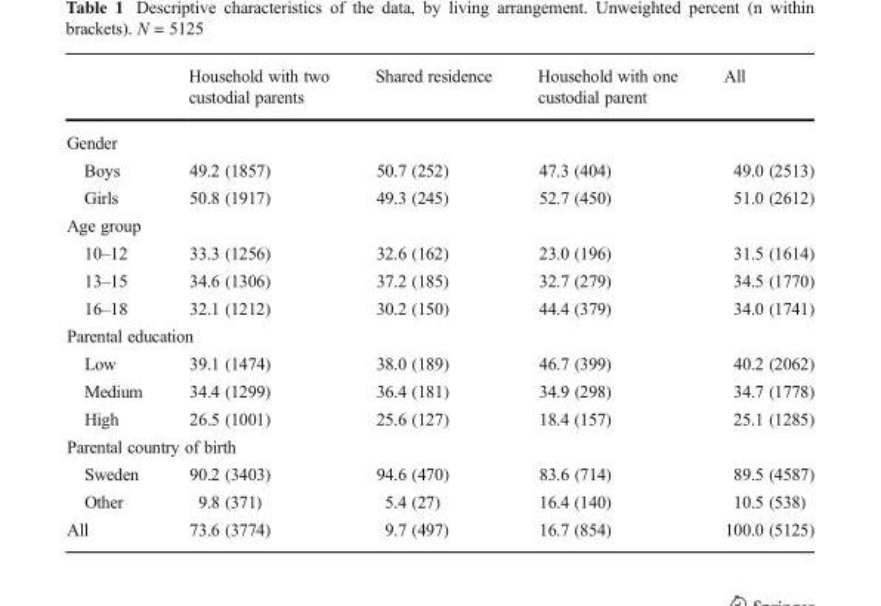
<table><thead><tr><td></td><td>Household with two custodial parents</td><td>Shared residence</td><td>Household with one custodial parent</td><td>All</td></tr></thead><tbody><tr><td colspan="5">Gender</td></tr><tr><td>Boys</td><td>49.2 (1857)</td><td>50.7 (252)</td><td>47.3 (404)</td><td>49.0 (2513)</td></tr><tr><td>Girls</td><td>50.8 (1917)</td><td>49.3 (245)</td><td>52.7 (450)</td><td>51.0 (2612)</td></tr><tr><td colspan="5">Age group</td></tr><tr><td>10–12</td><td>33.3 (1256)</td><td>32.6 (162)</td><td>23.0 (196)</td><td>31.5 (1614)</td></tr><tr><td>13–15</td><td>34.6 (1306)</td><td>37.2 (185)</td><td>32.7 (279)</td><td>34.5 (1770)</td></tr><tr><td>16–18</td><td>32.1 (1212)</td><td>30.2 (150)</td><td>44.4 (379)</td><td>34.0 (1741)</td></tr><tr><td colspan="5">Parental education</td></tr><tr><td>Low</td><td>39.1 (1474)</td><td>38.0 (189)</td><td>46.7 (399)</td><td>40.2 (2062)</td></tr><tr><td>Medium</td><td>34.4 (1299)</td><td>36.4 (181)</td><td>34.9 (298)</td><td>34.7 (1778)</td></tr><tr><td>High</td><td>26.5 (1001)</td><td>25.6 (127)</td><td>18.4 (157)</td><td>25.1 (1285)</td></tr><tr><td colspan="5">Parental country of birth</td></tr><tr><td>Sweden</td><td>90.2 (3403)</td><td>94.6 (470)</td><td>83.6 (714)</td><td>89.5 (4587)</td></tr><tr><td>Other</td><td>9.8 (371)</td><td>5.4 (27)</td><td>16.4 (140)</td><td>10.5 (538)</td></tr><tr><td>All</td><td>73.6 (3774)</td><td>9.7 (497)</td><td>16.7 (854)</td><td>100.0 (5125)</td></tr></tbody></table>